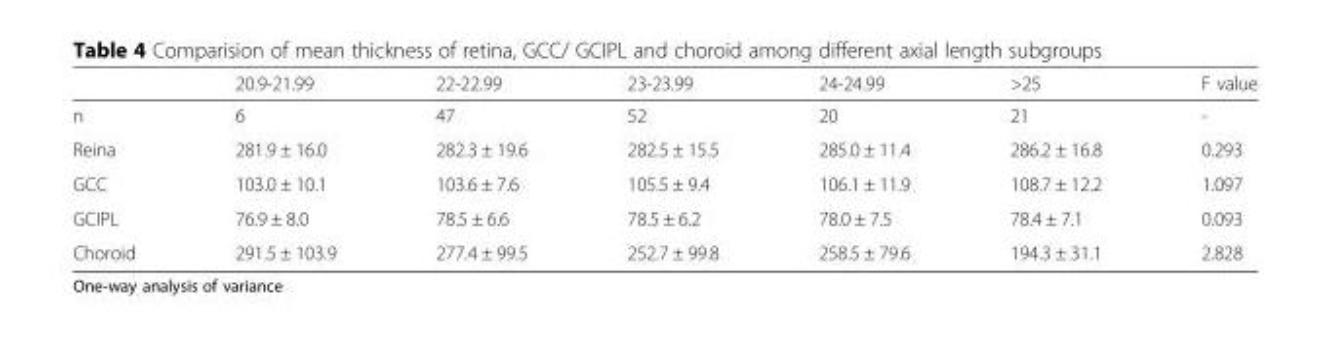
<table><thead><tr><td></td><td>20.9-21.99</td><td>22-22.99</td><td>23-23.99</td><td>24-24.99</td><td>&gt;25</td><td>F value</td></tr></thead><tbody><tr><td>n</td><td>6</td><td>47</td><td>52</td><td>20</td><td>21</td><td>-</td></tr><tr><td>Reina</td><td>281.9 ± 16.0</td><td>282.3 ± 19.6</td><td>282.5 ± 15.5</td><td>285.0 ± 11.4</td><td>286.2 ± 16.8</td><td>0.293</td></tr><tr><td>GCC</td><td>103.0 ± 10.1</td><td>103.6 ± 7.6</td><td>105.5 ± 9.4</td><td>106.1 ± 11.9</td><td>108.7 ± 12.2</td><td>1.097</td></tr><tr><td>GCIPL</td><td>76.9 ± 8.0</td><td>78.5 ± 6.6</td><td>78.5 ± 6.2</td><td>78.0 ± 7.5</td><td>78.4 ± 7.1</td><td>0.093</td></tr><tr><td>Choroid</td><td>291.5 ± 103.9</td><td>277.4 ± 99.5</td><td>252.7 ± 99.8</td><td>258.5 ± 79.6</td><td>194.3 ± 31.1</td><td>2.828</td></tr></tbody></table>